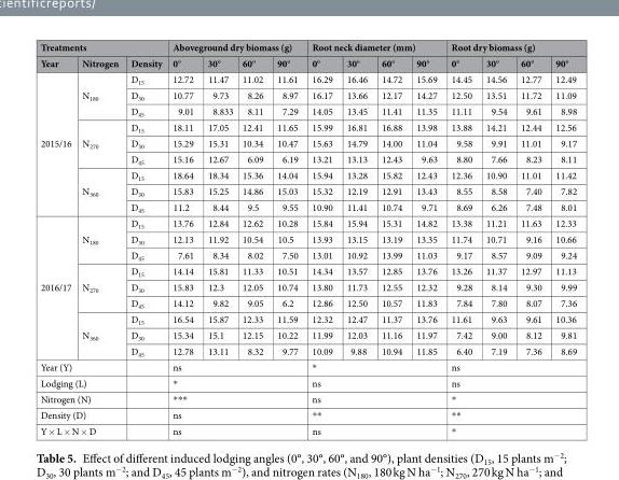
<table><thead><tr><td colspan="3">Treatments</td><td colspan="4">Aboveground dry biomass (g)</td><td colspan="4">Root neck diameter (mm)</td><td colspan="4">Root dry biomass (g)</td></tr><tr><td>Year</td><td>Nitrogen</td><td>Density</td><td>0°</td><td>30°</td><td>60°</td><td>90°</td><td>0°</td><td>30°</td><td>60°</td><td>90°</td><td>0°</td><td>30°</td><td>60°</td><td>90°</td></tr></thead><tbody><tr><td rowspan="9">2015/16</td><td rowspan="3">N<sub>180</sub></td><td>D<sub>15</sub></td><td>12.72</td><td>11.47</td><td>11.02</td><td>11.61</td><td>16.29</td><td>16.46</td><td>14.72</td><td>15.69</td><td>14.45</td><td>14.56</td><td>12.77</td><td>12.49</td></tr><tr><td>D<sub>30</sub></td><td>10.77</td><td>9.73</td><td>8.26</td><td>8.97</td><td>16.17</td><td>13.66</td><td>12.17</td><td>14.27</td><td>12.50</td><td>13.51</td><td>11.72</td><td>11.09</td></tr><tr><td>D<sub>45</sub></td><td>9.01</td><td>8.833</td><td>8.11</td><td>7.29</td><td>14.05</td><td>13.45</td><td>11.41</td><td>11.35</td><td>11.11</td><td>9.54</td><td>9.61</td><td>8.98</td></tr><tr><td rowspan="3">N<sub>270</sub></td><td>D<sub>15</sub></td><td>18.11</td><td>17.05</td><td>12.41</td><td>11.65</td><td>15.99</td><td>16.81</td><td>16.88</td><td>13.98</td><td>13.88</td><td>14.21</td><td>12.44</td><td>12.56</td></tr><tr><td>D<sub>30</sub></td><td>15.29</td><td>15.31</td><td>10.34</td><td>10.47</td><td>15.63</td><td>14.79</td><td>14.00</td><td>11.04</td><td>9.58</td><td>9.91</td><td>11.01</td><td>9.17</td></tr><tr><td>D<sub>45</sub></td><td>15.16</td><td>12.67</td><td>6.09</td><td>6.19</td><td>13.21</td><td>13.13</td><td>12.43</td><td>9.63</td><td>8.80</td><td>7.66</td><td>8.23</td><td>8.11</td></tr><tr><td rowspan="3">N<sub>360</sub></td><td>D<sub>15</sub></td><td>18.64</td><td>18.34</td><td>15.36</td><td>14.04</td><td>15.94</td><td>13.28</td><td>15.82</td><td>12.43</td><td>12.36</td><td>10.90</td><td>11.01</td><td>11.42</td></tr><tr><td>D<sub>30</sub></td><td>15.83</td><td>15.25</td><td>14.86</td><td>15.03</td><td>15.32</td><td>12.19</td><td>12.91</td><td>13.43</td><td>8.55</td><td>8.58</td><td>7.40</td><td>7.82</td></tr><tr><td>D<sub>45</sub></td><td>11.2</td><td>8.44</td><td>9.5</td><td>9.55</td><td>10.90</td><td>11.41</td><td>10.74</td><td>9.71</td><td>8.69</td><td>6.26</td><td>7.48</td><td>8.01</td></tr><tr><td rowspan="9">2016/17</td><td rowspan="3">N<sub>180</sub></td><td>D<sub>15</sub></td><td>13.76</td><td>12.84</td><td>12.62</td><td>10.28</td><td>15.84</td><td>15.94</td><td>15.31</td><td>14.82</td><td>13.38</td><td>11.21</td><td>11.63</td><td>12.33</td></tr><tr><td>D<sub>30</sub></td><td>12.13</td><td>11.92</td><td>10.54</td><td>10.5</td><td>13.93</td><td>13.15</td><td>13.19</td><td>13.35</td><td>11.74</td><td>10.71</td><td>9.16</td><td>10.66</td></tr><tr><td>D<sub>45</sub></td><td>7.61</td><td>8.34</td><td>8.02</td><td>7.50</td><td>13.01</td><td>10.92</td><td>13.99</td><td>11.03</td><td>9.17</td><td>8.57</td><td>9.09</td><td>9.24</td></tr><tr><td rowspan="3">N<sub>270</sub></td><td>D<sub>15</sub></td><td>14.14</td><td>15.81</td><td>11.33</td><td>10.51</td><td>14.34</td><td>13.57</td><td>12.85</td><td>13.76</td><td>13.26</td><td>11.37</td><td>12.97</td><td>11.13</td></tr><tr><td>D<sub>30</sub></td><td>15.83</td><td>12.3</td><td>12.05</td><td>10.74</td><td>13.80</td><td>11.73</td><td>12.55</td><td>12.32</td><td>9.28</td><td>8.14</td><td>9.30</td><td>9.99</td></tr><tr><td>D<sub>45</sub></td><td>14.12</td><td>9.82</td><td>9.05</td><td>6.2</td><td>12.86</td><td>12.50</td><td>10.57</td><td>11.83</td><td>7.84</td><td>7.80</td><td>8.07</td><td>7.36</td></tr><tr><td rowspan="3">N<sub>360</sub></td><td>D<sub>15</sub></td><td>16.54</td><td>15.87</td><td>12.33</td><td>11.59</td><td>12.32</td><td>12.47</td><td>11.37</td><td>13.76</td><td>11.61</td><td>9.63</td><td>9.61</td><td>10.36</td></tr><tr><td>D<sub>30</sub></td><td>15.34</td><td>15.1</td><td>12.15</td><td>10.22</td><td>11.99</td><td>12.03</td><td>11.16</td><td>11.97</td><td>7.42</td><td>9.00</td><td>8.12</td><td>9.81</td></tr><tr><td>D<sub>45</sub></td><td>12.78</td><td>13.11</td><td>8.32</td><td>9.77</td><td>10.09</td><td>9.88</td><td>10.94</td><td>11.85</td><td>6.40</td><td>7.19</td><td>7.36</td><td>8.69</td></tr><tr><td colspan="2">Year (Y)</td><td></td><td colspan="4">ns</td><td colspan="4">*</td><td colspan="4">ns</td></tr><tr><td colspan="2">Lodging (L)</td><td></td><td colspan="4">*</td><td colspan="4">ns</td><td colspan="4">ns</td></tr><tr><td colspan="2">Nitrogen (N)</td><td></td><td colspan="4">***</td><td colspan="4">ns</td><td colspan="4">*</td></tr><tr><td colspan="2">Density (D)</td><td></td><td colspan="4">ns</td><td colspan="4">**</td><td colspan="4">**</td></tr><tr><td colspan="2">Y × L × N × D</td><td></td><td colspan="4">ns</td><td colspan="4">ns</td><td colspan="4">*</td></tr></tbody></table>